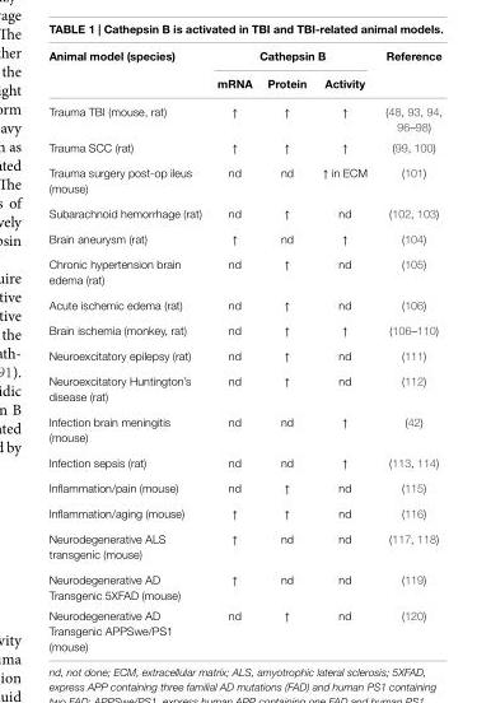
<table><thead><tr><td rowspan="2">Animal model (species)</td><td colspan="3">Cathepsin B</td><td rowspan="2">Reference</td></tr><tr><td>mRNA</td><td>Protein</td><td>Activity</td></tr></thead><tbody><tr><td>Trauma TBI (mouse, rat)</td><td>↑</td><td>↑</td><td>↑</td><td>(48, 93, 94, 96–98)</td></tr><tr><td>Trauma SCC (rat)</td><td>↑</td><td>↑</td><td>↑</td><td>(99, 100)</td></tr><tr><td>Trauma surgery post-op ileus (mouse)</td><td>nd</td><td>nd</td><td>↑ in ECM</td><td>(101)</td></tr><tr><td>Subarachnoid hemorrhage (rat)</td><td>nd</td><td>↑</td><td>nd</td><td>(102, 103)</td></tr><tr><td>Brain aneurysm (rat)</td><td>↑</td><td>nd</td><td>↑</td><td>(104)</td></tr><tr><td>Chronic hypertension brain edema (rat)</td><td>nd</td><td>↑</td><td>nd</td><td>(105)</td></tr><tr><td>Acute ischemic edema (rat)</td><td>nd</td><td>↑</td><td>nd</td><td>(106)</td></tr><tr><td>Brain ischemia (monkey, rat)</td><td>nd</td><td>↑</td><td>↑</td><td>(106–110)</td></tr><tr><td>Neuroexcitatory epilepsy (rat)</td><td>nd</td><td>↑</td><td>nd</td><td>(111)</td></tr><tr><td>Neuroexcitatory Huntington’s disease (rat)</td><td>nd</td><td>↑</td><td>nd</td><td>(112)</td></tr><tr><td>Infection brain meningitis (mouse)</td><td>nd</td><td>nd</td><td>↑</td><td>(42)</td></tr><tr><td>Infection sepsis (rat)</td><td>nd</td><td>nd</td><td>↑</td><td>(113, 114)</td></tr><tr><td>Inflammation/pain (mouse)</td><td>nd</td><td>↑</td><td>nd</td><td>(115)</td></tr><tr><td>Inflammation/aging (mouse)</td><td>↑</td><td>↑</td><td>nd</td><td>(116)</td></tr><tr><td>Neurodegenerative ALS transgenic (mouse)</td><td>↑</td><td>nd</td><td>nd</td><td>(117, 118)</td></tr><tr><td>Neurodegenerative AD Transgenic 5XFAD (mouse)</td><td>↑</td><td>nd</td><td>nd</td><td>(119)</td></tr><tr><td>Neurodegenerative AD Transgenic APPSwe/PS1 (mouse)</td><td>nd</td><td>↑</td><td>nd</td><td>(120)</td></tr></tbody></table>